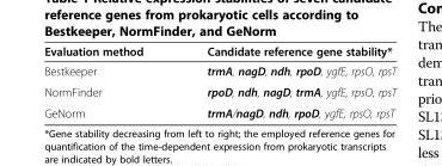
<table><thead><tr><td>Evaluation method</td><td>Candidate reference gene stability*</td></tr></thead><tbody><tr><td>Bestkeeper</td><td>trmA, nagD, ndh, rpoD, ygfE, rpsO, rpsT</td></tr><tr><td>NormFinder</td><td>rpoD, ndh, nagD, trmA, ygfE, rpsO, rpsT</td></tr><tr><td>GeNorm</td><td>trmA/nagD, ndh, rpoD, ygfE, rpsO, rpsT</td></tr></tbody></table>